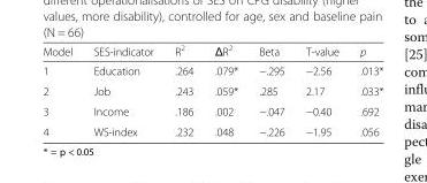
<table><thead><tr><td>Model</td><td>SES-indicator</td><td>R<sup>2</sup></td><td>ΔR<sup>2</sup></td><td>Beta</td><td>T-value</td><td>p</td></tr></thead><tbody><tr><td>1</td><td>Education</td><td>.264</td><td>.079*</td><td>−.295</td><td>−2.56</td><td>.013*</td></tr><tr><td>2</td><td>Job</td><td>.243</td><td>.059*</td><td>.285</td><td>2.17</td><td>.033*</td></tr><tr><td>3</td><td>Income</td><td>.186</td><td>.002</td><td>−.047</td><td>−0.40</td><td>.692</td></tr><tr><td>4</td><td>WS-index</td><td>.232</td><td>.048</td><td>−.226</td><td>−1.95</td><td>.056</td></tr></tbody></table>